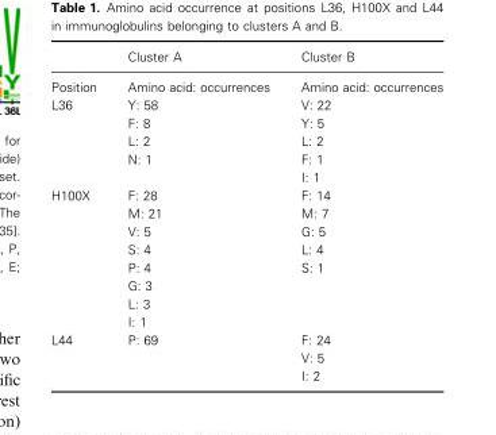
<table><thead><tr><td></td><td>Cluster A</td><td>Cluster B</td></tr></thead><tbody><tr><td>Position</td><td>Amino acid: occurrences</td><td>Amino acid: occurrences</td></tr><tr><td>L36</td><td>Y: 58 F: 8 L: 2 N: 1</td><td>V: 22 Y: 5 L: 2 F: 1 I: 1</td></tr><tr><td>H100X</td><td>F: 28 M: 21 V: 5 S: 4 P: 4 G: 3 L: 3 I: 1</td><td>F: 14 M: 7 G: 5 L: 4 S: 1</td></tr><tr><td>L44</td><td>P: 69</td><td>F: 24 V: 5 I: 2</td></tr></tbody></table>